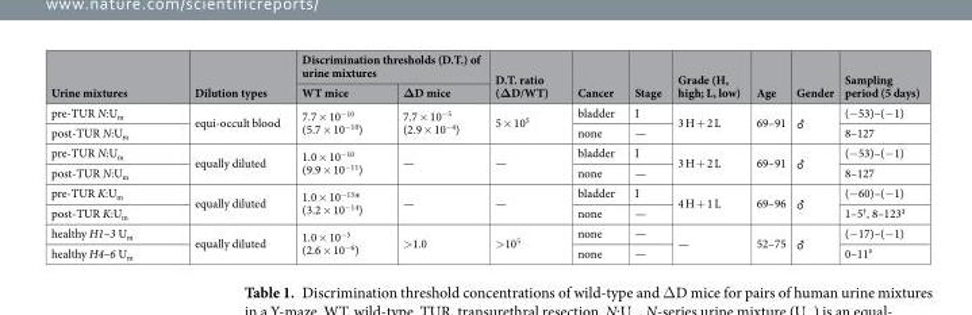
<table><thead><tr><td rowspan="2">Urine mixtures</td><td rowspan="2">Dilution types</td><td colspan="2">Discrimination thresholds (D.T.) of urine mixtures</td><td rowspan="2">D.T. ratio (ΔD/WT)</td><td rowspan="2">Cancer</td><td rowspan="2">Stage</td><td rowspan="2">Grade (H, high; L, low)</td><td rowspan="2">Age</td><td rowspan="2">Gender</td><td rowspan="2">Sampling period (5 days)</td></tr><tr><td>WT mice</td><td>ΔD mice</td></tr></thead><tbody><tr><td>pre-TUR N:U<sub>m</sub></td><td rowspan="2">equi-occult blood</td><td rowspan="2">7.7 × 10<sup>−10</sup> (5.7 × 10<sup>−10</sup>)</td><td rowspan="2">7.7 × 10<sup>−5</sup> (2.9 × 10<sup>−4</sup>)</td><td rowspan="2">5 × 10<sup>5</sup></td><td>bladder</td><td>I</td><td rowspan="2">3 H + 2 L</td><td rowspan="2">69–91</td><td rowspan="2">♂</td><td>(−53)–(−1)</td></tr><tr><td>post-TUR N:U<sub>m</sub></td><td>none</td><td>—</td><td>8–127</td></tr><tr><td>pre-TUR N:U<sub>m</sub></td><td rowspan="2">equally diluted</td><td rowspan="2">1.0 × 10<sup>−10</sup> (9.9 × 10<sup>−11</sup>)</td><td rowspan="2">—</td><td rowspan="2">—</td><td>bladder</td><td>I</td><td rowspan="2">3 H + 2 L</td><td rowspan="2">69–91</td><td rowspan="2">♂</td><td>(−53)–(−1)</td></tr><tr><td>post-TUR N:U<sub>m</sub></td><td>none</td><td>—</td><td>8–127</td></tr><tr><td>pre-TUR K:U<sub>m</sub></td><td rowspan="2">equally diluted</td><td rowspan="2">1.0 × 10<sup>−13</sup>* (3.2 × 10<sup>−14</sup>)</td><td rowspan="2">—</td><td rowspan="2">—</td><td>bladder</td><td>I</td><td rowspan="2">4 H + 1 L</td><td rowspan="2">69–96</td><td rowspan="2">♂</td><td>(−60)–(−1)</td></tr><tr><td>post-TUR K:U<sub>m</sub></td><td>none</td><td>—</td><td>1–5<sup>†</sup>, 8–123<sup>‡</sup></td></tr><tr><td>healthy H1–3 U<sub>m</sub></td><td rowspan="2">equally diluted</td><td rowspan="2">1.0 × 10<sup>−5</sup> (2.6 × 10<sup>−6</sup>)</td><td rowspan="2">&gt;1.0</td><td rowspan="2">&gt;10<sup>5</sup></td><td>none</td><td>—</td><td rowspan="2">—</td><td rowspan="2">52–75</td><td rowspan="2">♂</td><td>(−17)–(−1)</td></tr><tr><td>healthy H4–6 U<sub>m</sub></td><td>none</td><td>—</td><td>0–11<sup>#</sup></td></tr></tbody></table>